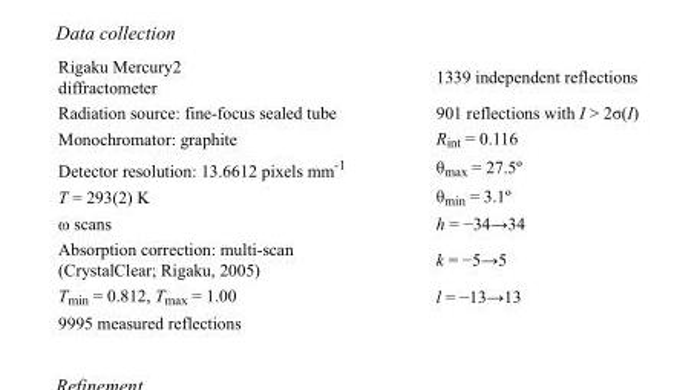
<table><tbody><tr><td>Rigaku Mercury2 diffractometer</td><td>1339 independent reflections</td></tr><tr><td>Radiation source: fine-focus sealed tube</td><td>901 reflections with I &gt; 2σ(I)</td></tr><tr><td>Monochromator: graphite</td><td>R<sub>int</sub> = 0.116</td></tr><tr><td>Detector resolution: 13.6612 pixels mm<sup>-1</sup></td><td>θ<sub>max</sub> = 27.5º</td></tr><tr><td>T = 293(2) K</td><td>θ<sub>min</sub> = 3.1º</td></tr><tr><td>ω scans</td><td>h = −34→34</td></tr><tr><td>Absorption correction: multi-scan (CrystalClear; Rigaku, 2005)</td><td>k = −5→5</td></tr><tr><td>T<sub>min</sub> = 0.812, T<sub>max</sub> = 1.00</td><td>l = −13→13</td></tr><tr><td>9995 measured reflections</td><td></td></tr></tbody></table>